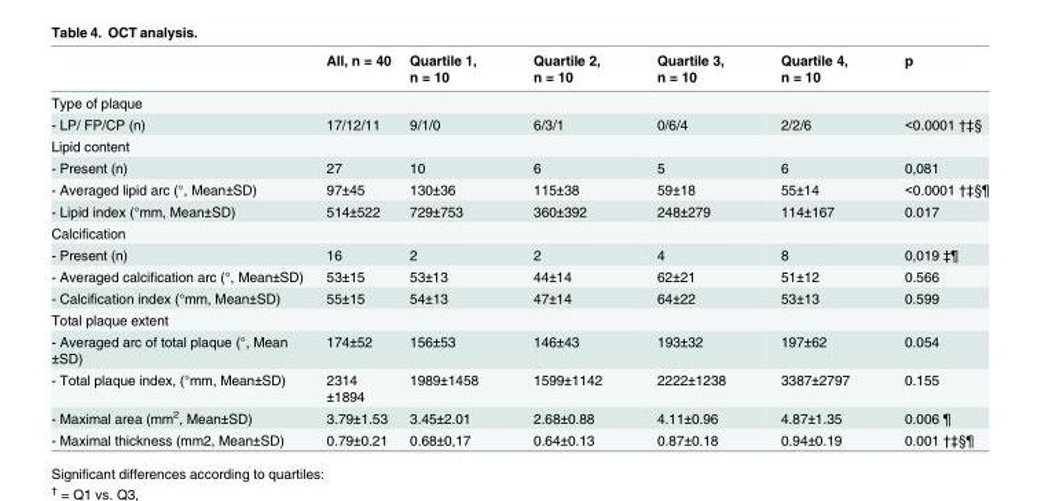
<table><thead><tr><td></td><td>All, n = 40</td><td>Quartile 1, n = 10</td><td>Quartile 2, n = 10</td><td>Quartile 3, n = 10</td><td>Quartile 4, n = 10</td><td>p</td></tr></thead><tbody><tr><td colspan="7">Type of plaque</td></tr><tr><td>- LP/ FP/CP (n)</td><td>17/12/11</td><td>9/1/0</td><td>6/3/1</td><td>0/6/4</td><td>2/2/6</td><td>&lt;0.0001 †‡§</td></tr><tr><td colspan="7">Lipid content</td></tr><tr><td>- Present (n)</td><td>27</td><td>10</td><td>6</td><td>5</td><td>6</td><td>0,081</td></tr><tr><td>- Averaged lipid arc (°, Mean±SD)</td><td>97±45</td><td>130±36</td><td>115±38</td><td>59±18</td><td>55±14</td><td>&lt;0.0001 †‡§¶</td></tr><tr><td>- Lipid index (°mm, Mean±SD)</td><td>514±522</td><td>729±753</td><td>360±392</td><td>248±279</td><td>114±167</td><td>0.017</td></tr><tr><td colspan="7">Calcification</td></tr><tr><td>- Present (n)</td><td>16</td><td>2</td><td>2</td><td>4</td><td>8</td><td>0,019 ‡¶</td></tr><tr><td>- Averaged calcification arc (°, Mean±SD)</td><td>53±15</td><td>53±13</td><td>44±14</td><td>62±21</td><td>51±12</td><td>0.566</td></tr><tr><td>- Calcification index (°mm, Mean±SD)</td><td>55±15</td><td>54±13</td><td>47±14</td><td>64±22</td><td>53±13</td><td>0.599</td></tr><tr><td colspan="7">Total plaque extent</td></tr><tr><td>- Averaged arc of total plaque (°, Mean ±SD)</td><td>174±52</td><td>156±53</td><td>146±43</td><td>193±32</td><td>197±62</td><td>0.054</td></tr><tr><td>- Total plaque index, (°mm, Mean±SD)</td><td>2314 ±1894</td><td>1989±1458</td><td>1599±1142</td><td>2222±1238</td><td>3387±2797</td><td>0.155</td></tr><tr><td>- Maximal area (mm<sup>2</sup>, Mean±SD)</td><td>3.79±1.53</td><td>3.45±2.01</td><td>2.68±0.88</td><td>4.11±0.96</td><td>4.87±1.35</td><td>0.006 ¶</td></tr><tr><td>- Maximal thickness (mm2, Mean±SD)</td><td>0.79±0.21</td><td>0.68±0,17</td><td>0.64±0.13</td><td>0.87±0.18</td><td>0.94±0.19</td><td>0.001 †‡§¶</td></tr></tbody></table>